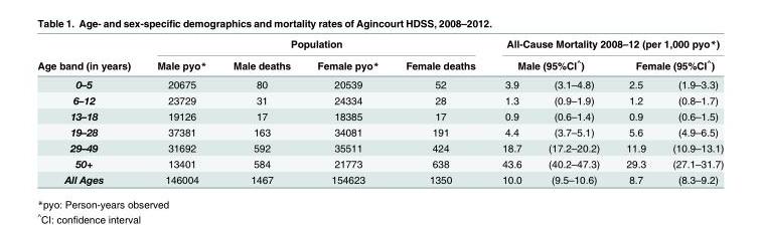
<table><thead><tr><td rowspan="3">Age band (in years) 0–5</td><td colspan="4">Population</td><td colspan="4">All-Cause Mortality 2008–12 (per 1,000 pyo*)</td></tr><tr><td rowspan="2">Male pyo* 20675</td><td rowspan="2">Male deaths 80</td><td rowspan="2">Female pyo* 20539</td><td rowspan="2">Female deaths 52</td><td colspan="2">Male (95%CI<sup>^</sup>)</td><td colspan="2">Female (95%CI<sup>^</sup>)</td></tr><tr><td>3.9</td><td>(3.1–4.8)</td><td>2.5</td><td>(1.9–3.3)</td></tr></thead><tbody><tr><td>6–12</td><td>23729</td><td>31</td><td>24334</td><td>28</td><td>1.3</td><td>(0.9–1.9)</td><td>1.2</td><td>(0.8–1.7)</td></tr><tr><td>13–18</td><td>19126</td><td>17</td><td>18385</td><td>17</td><td>0.9</td><td>(0.6–1.4)</td><td>0.9</td><td>(0.6–1.5)</td></tr><tr><td>19–28</td><td>37381</td><td>163</td><td>34081</td><td>191</td><td>4.4</td><td>(3.7–5.1)</td><td>5.6</td><td>(4.9–6.5)</td></tr><tr><td>29–49</td><td>31692</td><td>592</td><td>35511</td><td>424</td><td>18.7</td><td>(17.2–20.2)</td><td>11.9</td><td>(10.9–13.1)</td></tr><tr><td>50+</td><td>13401</td><td>584</td><td>21773</td><td>638</td><td>43.6</td><td>(40.2–47.3)</td><td>29.3</td><td>(27.1–31.7)</td></tr><tr><td>All Ages</td><td>146004</td><td>1467</td><td>154623</td><td>1350</td><td>10.0</td><td>(9.5–10.6)</td><td>8.7</td><td>(8.3–9.2)</td></tr></tbody></table>